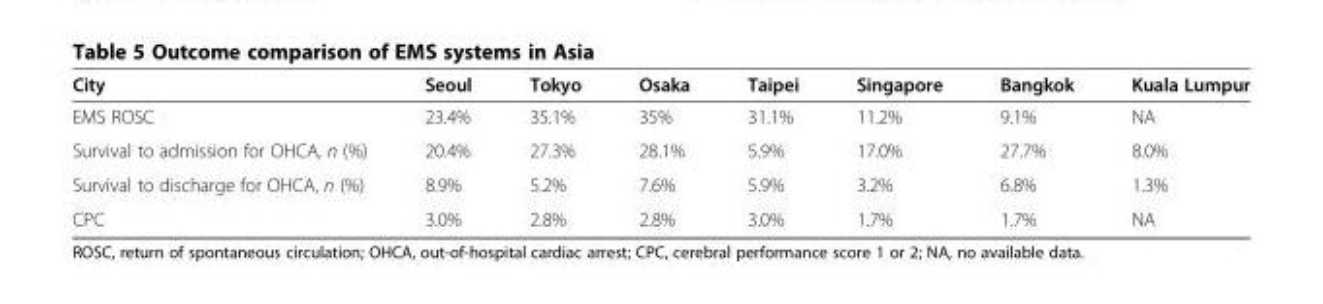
<table><thead><tr><td>City</td><td>Seoul</td><td>Tokyo</td><td>Osaka</td><td>Taipei</td><td>Singapore</td><td>Bangkok</td><td>Kuala Lumpur</td></tr></thead><tbody><tr><td>EMS ROSC</td><td>23.4%</td><td>35.1%</td><td>35%</td><td>31.1%</td><td>11.2%</td><td>9.1%</td><td>NA</td></tr><tr><td>Survival to admission for OHCA, n (%)</td><td>20.4%</td><td>27.3%</td><td>28.1%</td><td>5.9%</td><td>17.0%</td><td>27.7%</td><td>8.0%</td></tr><tr><td>Survival to discharge for OHCA, n (%)</td><td>8.9%</td><td>5.2%</td><td>7.6%</td><td>5.9%</td><td>3.2%</td><td>6.8%</td><td>1.3%</td></tr><tr><td>CPC</td><td>3.0%</td><td>2.8%</td><td>2.8%</td><td>3.0%</td><td>1.7%</td><td>1.7%</td><td>NA</td></tr></tbody></table>